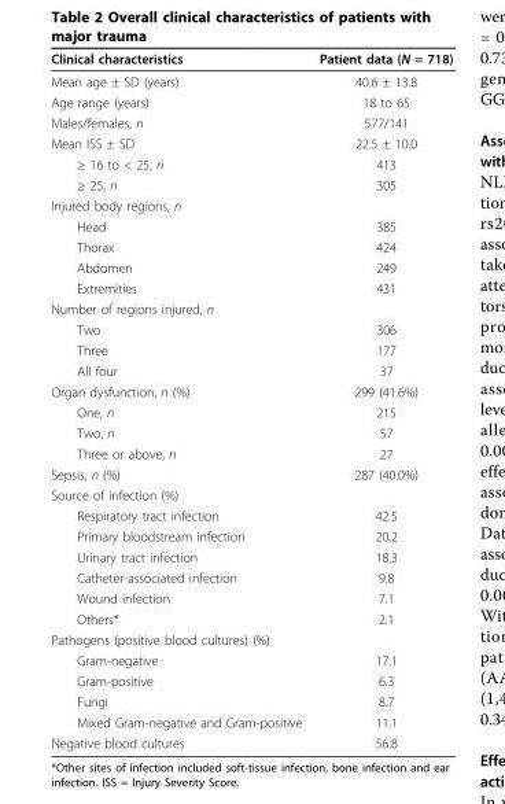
<table><thead><tr><td>Clinical characteristics</td><td>Patient data (N = 718)</td></tr></thead><tbody><tr><td>Mean age ± SD (years)</td><td>40.6 ± 13.8</td></tr><tr><td>Age range (years)</td><td>18 to 65</td></tr><tr><td>Males/females, n</td><td>577/141</td></tr><tr><td>Mean ISS ± SD</td><td>22.5 ± 10.0</td></tr><tr><td>≥ 16 to &lt; 25, n</td><td>413</td></tr><tr><td>≥ 25, n</td><td>305</td></tr><tr><td colspan="2">Injured body regions, n</td></tr><tr><td>Head</td><td>385</td></tr><tr><td>Thorax</td><td>424</td></tr><tr><td>Abdomen</td><td>249</td></tr><tr><td>Extremities</td><td>431</td></tr><tr><td colspan="2">Number of regions injured, n</td></tr><tr><td>Two</td><td>306</td></tr><tr><td>Three</td><td>177</td></tr><tr><td>All four</td><td>37</td></tr><tr><td>Organ dysfunction, n (%)</td><td>299 (41.6%)</td></tr><tr><td>One, n</td><td>215</td></tr><tr><td>Two, n</td><td>57</td></tr><tr><td>Three or above, n</td><td>27</td></tr><tr><td>Sepsis, n (%)</td><td>287 (40.0%)</td></tr><tr><td colspan="2">Source of infection (%)</td></tr><tr><td>Respiratory tract infection</td><td>42.5</td></tr><tr><td>Primary bloodstream infection</td><td>20.2</td></tr><tr><td>Urinary tract infection</td><td>18.3</td></tr><tr><td>Catheter-associated infection</td><td>9.8</td></tr><tr><td>Wound infection</td><td>7.1</td></tr><tr><td>Others*</td><td>2.1</td></tr><tr><td colspan="2">Pathogens (positive blood cultures) (%)</td></tr><tr><td>Gram-negative</td><td>17.1</td></tr><tr><td>Gram-positive</td><td>6.3</td></tr><tr><td>Fungi</td><td>8.7</td></tr><tr><td>Mixed Gram-negative and Gram-positive</td><td>11.1</td></tr><tr><td>Negative blood cultures</td><td>56.8</td></tr></tbody></table>